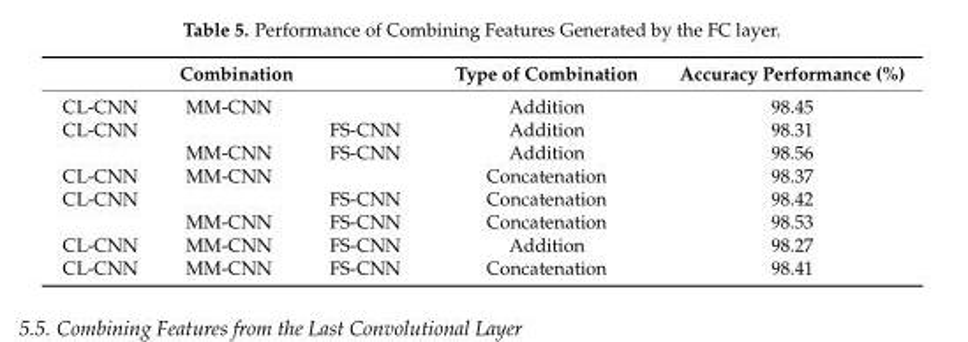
<table><thead><tr><td colspan="3">Combination</td><td rowspan="2">Type of Combination Addition</td><td rowspan="2">Accuracy Performance (%) 98.45</td></tr><tr><td>CL-CNN</td><td>MM-CNN</td><td></td></tr></thead><tbody><tr><td rowspan="2">CL-CNN</td><td></td><td>FS-CNN</td><td>Addition</td><td>98.31</td></tr><tr><td>MM-CNN</td><td>FS-CNN</td><td>Addition</td><td>98.56</td></tr><tr><td>CL-CNN</td><td>MM-CNN</td><td></td><td>Concatenation</td><td>98.37</td></tr><tr><td rowspan="2">CL-CNN</td><td></td><td>FS-CNN</td><td>Concatenation</td><td>98.42</td></tr><tr><td>MM-CNN</td><td>FS-CNN</td><td>Concatenation</td><td>98.53</td></tr><tr><td>CL-CNN</td><td>MM-CNN</td><td>FS-CNN</td><td>Addition</td><td>98.27</td></tr><tr><td>CL-CNN</td><td>MM-CNN</td><td>FS-CNN</td><td>Concatenation</td><td>98.41</td></tr></tbody></table>